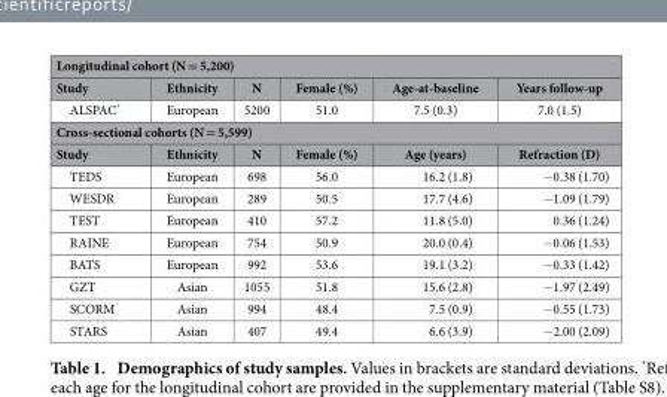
<table><thead><tr><td colspan="6">Longitudinal cohort (N = 5,200)</td></tr><tr><td>Study</td><td>Ethnicity</td><td>N</td><td>Female (%)</td><td>Age-at-baseline</td><td>Years follow-up</td></tr></thead><tbody><tr><td>ALSPAC*</td><td>European</td><td>5200</td><td>51.0</td><td>7.5 (0.3)</td><td>7.0 (1.5)</td></tr><tr><td colspan="6">Cross-sectional cohorts (N = 5,599)</td></tr><tr><td>Study</td><td>Ethnicity</td><td>N</td><td>Female (%)</td><td>Age (years)</td><td>Refraction (D)</td></tr><tr><td>TEDS</td><td>European</td><td>698</td><td>56.0</td><td>16.2 (1.8)</td><td>− 0.38 (1.70)</td></tr><tr><td>WESDR</td><td>European</td><td>289</td><td>50.5</td><td>17.7 (4.6)</td><td>− 1.09 (1.79)</td></tr><tr><td>TEST</td><td>European</td><td>410</td><td>57.2</td><td>11.8 (5.0)</td><td>0.36 (1.24)</td></tr><tr><td>RAINE</td><td>European</td><td>754</td><td>50.9</td><td>20.0 (0.4)</td><td>− 0.06 (1.53)</td></tr><tr><td>BATS</td><td>European</td><td>992</td><td>53.6</td><td>19.1 (3.2)</td><td>− 0.33 (1.42)</td></tr><tr><td>GZT</td><td>Asian</td><td>1055</td><td>51.8</td><td>15.6 (2.8)</td><td>− 1.97 (2.49)</td></tr><tr><td>SCORM</td><td>Asian</td><td>994</td><td>48.4</td><td>7.5 (0.9)</td><td>− 0.55 (1.73)</td></tr><tr><td>STARS</td><td>Asian</td><td>407</td><td>49.4</td><td>6.6 (3.9)</td><td>− 2.00 (2.09)</td></tr></tbody></table>